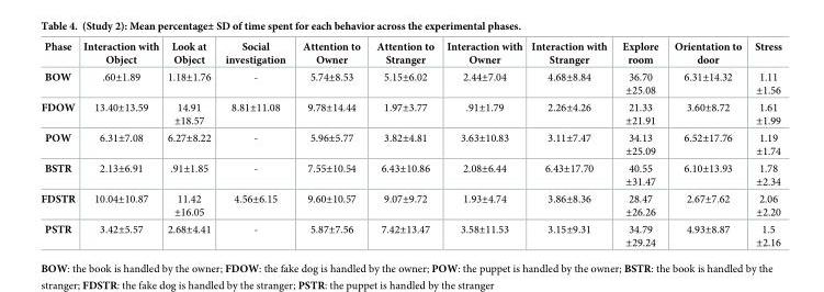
<table><thead><tr><td>Phase</td><td>Interaction with Object</td><td>Look at Object</td><td>Social investigation</td><td>Attention to Owner</td><td>Attention to Stranger</td><td>Interaction with Owner</td><td>Interaction with Stranger</td><td>Explore room</td><td>Orientation to door</td><td>Stress</td></tr></thead><tbody><tr><td>BOW</td><td>.60±1.89</td><td>1.18±1.76</td><td>-</td><td>5.74±8.53</td><td>5.15±6.02</td><td>2.44±7.04</td><td>4.68±8.84</td><td>36.70 ±25.08</td><td>6.31±14.32</td><td>1.11 ±1.56</td></tr><tr><td>FDOW</td><td>13.40±13.59</td><td>14.91 ±18.57</td><td>8.81±11.08</td><td>9.78±14.44</td><td>1.97±3.77</td><td>.91±1.79</td><td>2.26±4.26</td><td>21.33 ±21.91</td><td>3.60±8.72</td><td>1.61 ±1.99</td></tr><tr><td>POW</td><td>6.31±7.08</td><td>6.27±8.22</td><td>-</td><td>5.96±5.77</td><td>3.82±4.81</td><td>3.63±10.83</td><td>3.11±7.47</td><td>34.13 ±25.09</td><td>6.52±17.76</td><td>1.19 ±1.74</td></tr><tr><td>BSTR</td><td>2.13±6.91</td><td>.91±1.85</td><td>-</td><td>7.55±10.54</td><td>6.43±10.86</td><td>2.08±6.44</td><td>6.43±17.70</td><td>40.55 ±31.47</td><td>6.10±13.93</td><td>1.78 ±2.34</td></tr><tr><td>FDSTR</td><td>10.04±10.87</td><td>11.42 ±16.05</td><td>4.56±6.15</td><td>9.60±10.57</td><td>9.07±9.72</td><td>1.93±4.74</td><td>3.86±8.36</td><td>28.47 ±26.26</td><td>2.67±7.62</td><td>2.06 ±2.20</td></tr><tr><td>PSTR</td><td>3.42±5.57</td><td>2.68±4.41</td><td>-</td><td>5.87±7.56</td><td>7.42±13.47</td><td>3.58±11.53</td><td>3.15±9.31</td><td>34.79 ±29.24</td><td>4.93±8.87</td><td>1.5 ±2.16</td></tr></tbody></table>